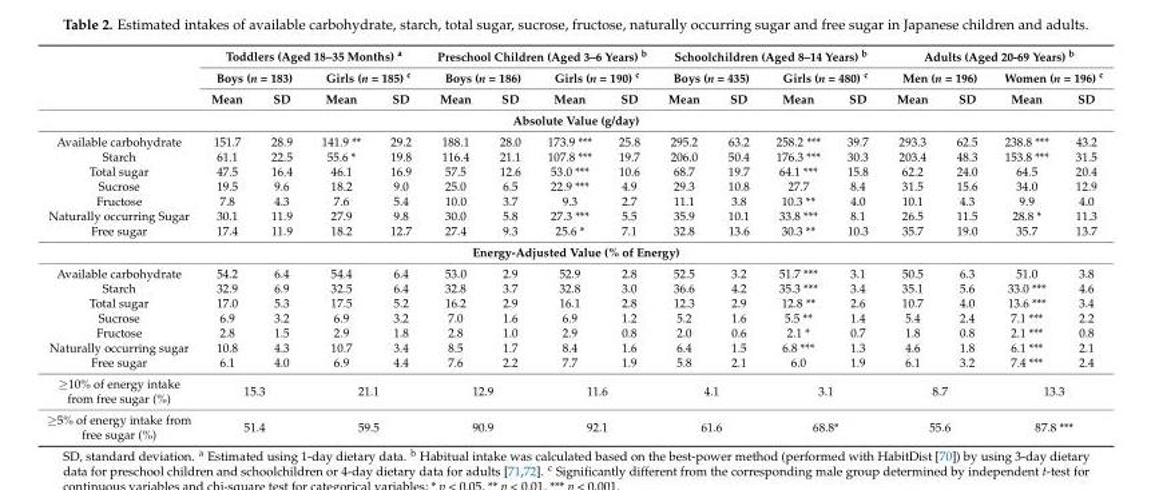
<table><thead><tr><td rowspan="3"></td><td colspan="4">Toddlers (Aged 18–35 Months) <sup>a</sup></td><td colspan="4">Preschool Children (Aged 3–6 Years) <sup>b</sup></td><td colspan="4">Schoolchildren (Aged 8–14 Years) <sup>b</sup></td><td colspan="4">Adults (Aged 20-69 Years) <sup>b</sup></td></tr><tr><td colspan="2">Boys (n = 183)</td><td colspan="2">Girls (n = 185) <sup>c</sup></td><td colspan="2">Boys (n = 186)</td><td colspan="2">Girls (n = 190) <sup>c</sup></td><td colspan="2">Boys (n = 435)</td><td colspan="2">Girls (n = 480) <sup>c</sup></td><td colspan="2">Men (n = 196)</td><td colspan="2">Women (n = 196) <sup>c</sup></td></tr><tr><td>Mean</td><td>SD</td><td>Mean</td><td>SD</td><td>Mean</td><td>SD</td><td>Mean</td><td>SD</td><td>Mean</td><td>SD</td><td>Mean</td><td>SD</td><td>Mean</td><td>SD</td><td>Mean</td><td>SD</td></tr></thead><tbody><tr><td colspan="17">Absolute Value (g/day)</td></tr><tr><td>Available carbohydrate</td><td>151.7</td><td>28.9</td><td>141.9 **</td><td>29.2</td><td>188.1</td><td>28.0</td><td>173.9 ***</td><td>25.8</td><td>295.2</td><td>63.2</td><td>258.2 ***</td><td>39.7</td><td>293.3</td><td>62.5</td><td>238.8 ***</td><td>43.2</td></tr><tr><td>Starch</td><td>61.1</td><td>22.5</td><td>55.6 *</td><td>19.8</td><td>116.4</td><td>21.1</td><td>107.8 ***</td><td>19.7</td><td>206.0</td><td>50.4</td><td>176.3 ***</td><td>30.3</td><td>203.4</td><td>48.3</td><td>153.8 ***</td><td>31.5</td></tr><tr><td>Total sugar</td><td>47.5</td><td>16.4</td><td>46.1</td><td>16.9</td><td>57.5</td><td>12.6</td><td>53.0 ***</td><td>10.6</td><td>68.7</td><td>19.7</td><td>64.1 ***</td><td>15.8</td><td>62.2</td><td>24.0</td><td>64.5</td><td>20.4</td></tr><tr><td>Sucrose</td><td>19.5</td><td>9.6</td><td>18.2</td><td>9.0</td><td>25.0</td><td>6.5</td><td>22.9 ***</td><td>4.9</td><td>29.3</td><td>10.8</td><td>27.7</td><td>8.4</td><td>31.5</td><td>15.6</td><td>34.0</td><td>12.9</td></tr><tr><td>Fructose</td><td>7.8</td><td>4.3</td><td>7.6</td><td>5.4</td><td>10.0</td><td>3.7</td><td>9.3</td><td>2.7</td><td>11.1</td><td>3.8</td><td>10.3 **</td><td>4.0</td><td>10.1</td><td>4.3</td><td>9.9</td><td>4.0</td></tr><tr><td>Naturally occurring Sugar</td><td>30.1</td><td>11.9</td><td>27.9</td><td>9.8</td><td>30.0</td><td>5.8</td><td>27.3 ***</td><td>5.5</td><td>35.9</td><td>10.1</td><td>33.8 ***</td><td>8.1</td><td>26.5</td><td>11.5</td><td>28.8 *</td><td>11.3</td></tr><tr><td>Free sugar</td><td>17.4</td><td>11.9</td><td>18.2</td><td>12.7</td><td>27.4</td><td>9.3</td><td>25.6 *</td><td>7.1</td><td>32.8</td><td>13.6</td><td>30.3 **</td><td>10.3</td><td>35.7</td><td>19.0</td><td>35.7</td><td>13.7</td></tr><tr><td colspan="17">Energy-Adjusted Value (% of Energy)</td></tr><tr><td>Available carbohydrate</td><td>54.2</td><td>6.4</td><td>54.4</td><td>6.4</td><td>53.0</td><td>2.9</td><td>52.9</td><td>2.8</td><td>52.5</td><td>3.2</td><td>51.7 ***</td><td>3.1</td><td>50.5</td><td>6.3</td><td>51.0</td><td>3.8</td></tr><tr><td>Starch</td><td>32.9</td><td>6.9</td><td>32.5</td><td>6.4</td><td>32.8</td><td>3.7</td><td>32.8</td><td>3.0</td><td>36.6</td><td>4.2</td><td>35.3 ***</td><td>3.4</td><td>35.1</td><td>5.6</td><td>33.0 ***</td><td>4.6</td></tr><tr><td>Total sugar</td><td>17.0</td><td>5.3</td><td>17.5</td><td>5.2</td><td>16.2</td><td>2.9</td><td>16.1</td><td>2.8</td><td>12.3</td><td>2.9</td><td>12.8 **</td><td>2.6</td><td>10.7</td><td>4.0</td><td>13.6 ***</td><td>3.4</td></tr><tr><td>Sucrose</td><td>6.9</td><td>3.2</td><td>6.9</td><td>3.2</td><td>7.0</td><td>1.6</td><td>6.9</td><td>1.2</td><td>5.2</td><td>1.6</td><td>5.5 **</td><td>1.4</td><td>5.4</td><td>2.4</td><td>7.1 ***</td><td>2.2</td></tr><tr><td>Fructose</td><td>2.8</td><td>1.5</td><td>2.9</td><td>1.8</td><td>2.8</td><td>1.0</td><td>2.9</td><td>0.8</td><td>2.0</td><td>0.6</td><td>2.1 *</td><td>0.7</td><td>1.8</td><td>0.8</td><td>2.1 ***</td><td>0.8</td></tr><tr><td>Naturally occurring sugar</td><td>10.8</td><td>4.3</td><td>10.7</td><td>3.4</td><td>8.5</td><td>1.7</td><td>8.4</td><td>1.6</td><td>6.4</td><td>1.5</td><td>6.8 ***</td><td>1.3</td><td>4.6</td><td>1.8</td><td>6.1 ***</td><td>2.1</td></tr><tr><td>Free sugar</td><td>6.1</td><td>4.0</td><td>6.9</td><td>4.4</td><td>7.6</td><td>2.2</td><td>7.7</td><td>1.9</td><td>5.8</td><td>2.1</td><td>6.0</td><td>1.9</td><td>6.1</td><td>3.2</td><td>7.4 ***</td><td>2.4</td></tr><tr><td>≥10% of energy intake from free sugar (%)</td><td colspan="2">15.3</td><td colspan="2">21.1</td><td colspan="2">12.9</td><td colspan="2">11.6</td><td colspan="2">4.1</td><td colspan="2">3.1</td><td colspan="2">8.7</td><td colspan="2">13.3</td></tr><tr><td>≥5% of energy intake from free sugar (%)</td><td colspan="2">51.4</td><td colspan="2">59.5</td><td colspan="2">90.9</td><td colspan="2">92.1</td><td colspan="2">61.6</td><td colspan="2">68.8*</td><td colspan="2">55.6</td><td colspan="2">87.8 ***</td></tr></tbody></table>